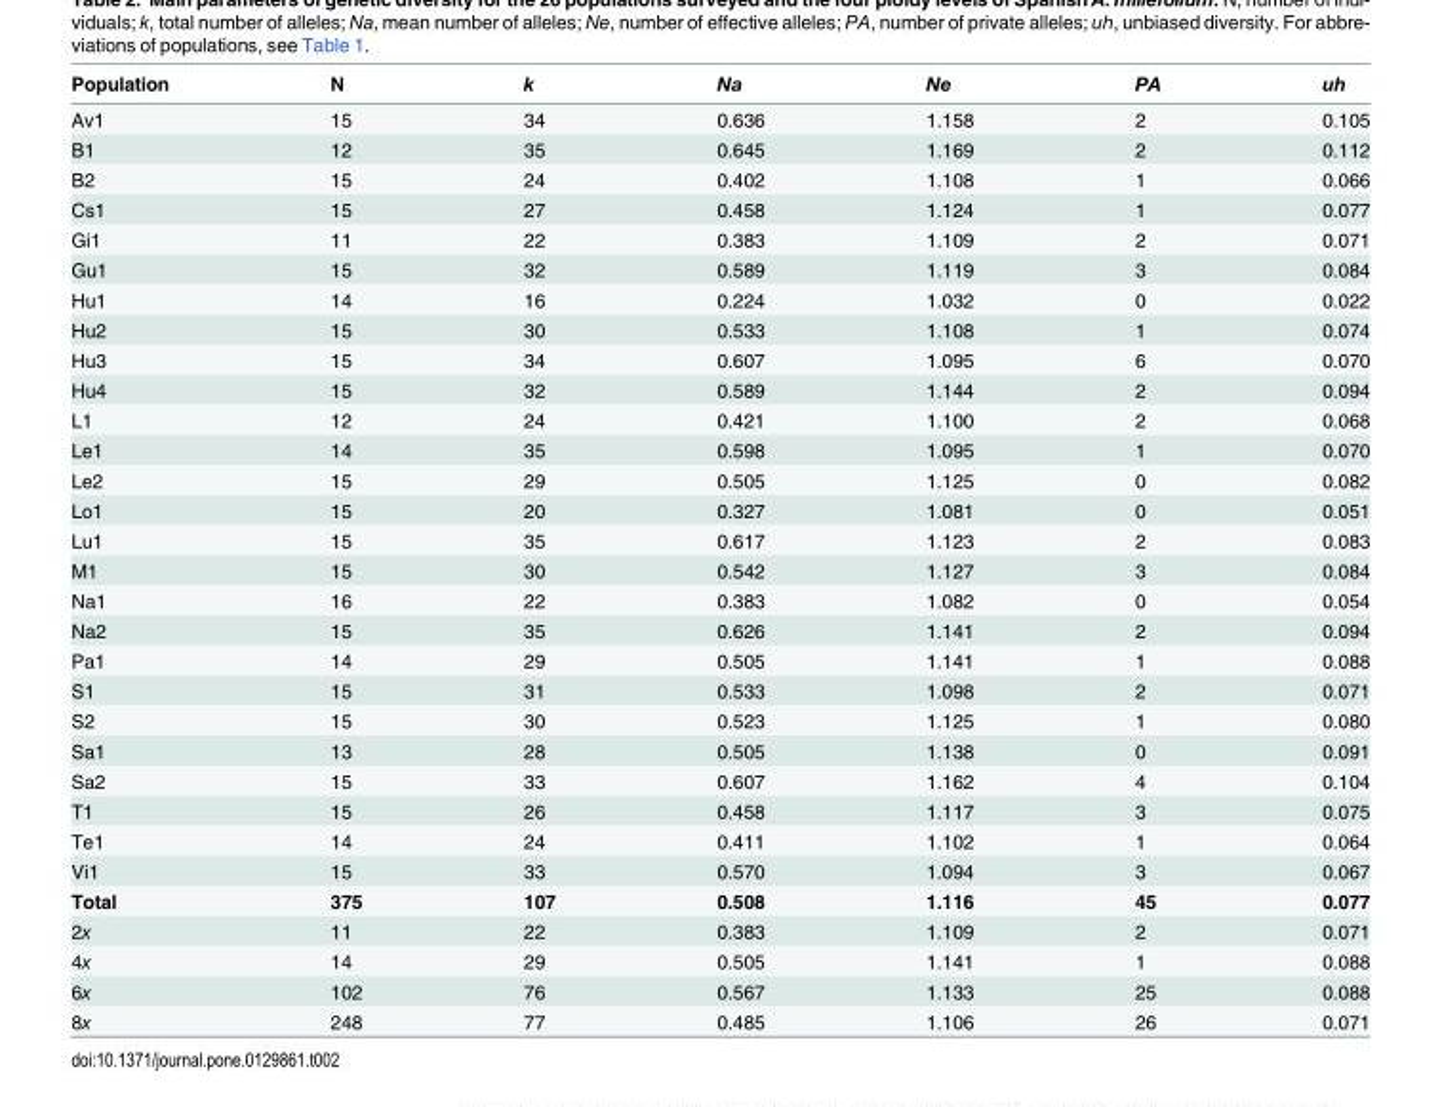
<table><thead><tr><td>Population</td><td>N</td><td>k</td><td>Na</td><td>Ne</td><td>PA</td><td>uh</td></tr></thead><tbody><tr><td>Av1</td><td>15</td><td>34</td><td>0.636</td><td>1.158</td><td>2</td><td>0.105</td></tr><tr><td>B1</td><td>12</td><td>35</td><td>0.645</td><td>1.169</td><td>2</td><td>0.112</td></tr><tr><td>B2</td><td>15</td><td>24</td><td>0.402</td><td>1.108</td><td>1</td><td>0.066</td></tr><tr><td>Cs1</td><td>15</td><td>27</td><td>0.458</td><td>1.124</td><td>1</td><td>0.077</td></tr><tr><td>Gi1</td><td>11</td><td>22</td><td>0.383</td><td>1.109</td><td>2</td><td>0.071</td></tr><tr><td>Gu1</td><td>15</td><td>32</td><td>0.589</td><td>1.119</td><td>3</td><td>0.084</td></tr><tr><td>Hu1</td><td>14</td><td>16</td><td>0.224</td><td>1.032</td><td>0</td><td>0.022</td></tr><tr><td>Hu2</td><td>15</td><td>30</td><td>0.533</td><td>1.108</td><td>1</td><td>0.074</td></tr><tr><td>Hu3</td><td>15</td><td>34</td><td>0.607</td><td>1.095</td><td>6</td><td>0.070</td></tr><tr><td>Hu4</td><td>15</td><td>32</td><td>0.589</td><td>1.144</td><td>2</td><td>0.094</td></tr><tr><td>L1</td><td>12</td><td>24</td><td>0.421</td><td>1.100</td><td>2</td><td>0.068</td></tr><tr><td>Le1</td><td>14</td><td>35</td><td>0.598</td><td>1.095</td><td>1</td><td>0.070</td></tr><tr><td>Le2</td><td>15</td><td>29</td><td>0.505</td><td>1.125</td><td>0</td><td>0.082</td></tr><tr><td>Lo1</td><td>15</td><td>20</td><td>0.327</td><td>1.081</td><td>0</td><td>0.051</td></tr><tr><td>Lu1</td><td>15</td><td>35</td><td>0.617</td><td>1.123</td><td>2</td><td>0.083</td></tr><tr><td>M1</td><td>15</td><td>30</td><td>0.542</td><td>1.127</td><td>3</td><td>0.084</td></tr><tr><td>Na1</td><td>16</td><td>22</td><td>0.383</td><td>1.082</td><td>0</td><td>0.054</td></tr><tr><td>Na2</td><td>15</td><td>35</td><td>0.626</td><td>1.141</td><td>2</td><td>0.094</td></tr><tr><td>Pa1</td><td>14</td><td>29</td><td>0.505</td><td>1.141</td><td>1</td><td>0.088</td></tr><tr><td>S1</td><td>15</td><td>31</td><td>0.533</td><td>1.098</td><td>2</td><td>0.071</td></tr><tr><td>S2</td><td>15</td><td>30</td><td>0.523</td><td>1.125</td><td>1</td><td>0.080</td></tr><tr><td>Sa1</td><td>13</td><td>28</td><td>0.505</td><td>1.138</td><td>0</td><td>0.091</td></tr><tr><td>Sa2</td><td>15</td><td>33</td><td>0.607</td><td>1.162</td><td>4</td><td>0.104</td></tr><tr><td>T1</td><td>15</td><td>26</td><td>0.458</td><td>1.117</td><td>3</td><td>0.075</td></tr><tr><td>Te1</td><td>14</td><td>24</td><td>0.411</td><td>1.102</td><td>1</td><td>0.064</td></tr><tr><td>Vi1</td><td>15</td><td>33</td><td>0.570</td><td>1.094</td><td>3</td><td>0.067</td></tr><tr><td>Total</td><td>375</td><td>107</td><td>0.508</td><td>1.116</td><td>45</td><td>0.077</td></tr><tr><td>2x</td><td>11</td><td>22</td><td>0.383</td><td>1.109</td><td>2</td><td>0.071</td></tr><tr><td>4x</td><td>14</td><td>29</td><td>0.505</td><td>1.141</td><td>1</td><td>0.088</td></tr><tr><td>6x</td><td>102</td><td>76</td><td>0.567</td><td>1.133</td><td>25</td><td>0.088</td></tr><tr><td>8x</td><td>248</td><td>77</td><td>0.485</td><td>1.106</td><td>26</td><td>0.071</td></tr></tbody></table>